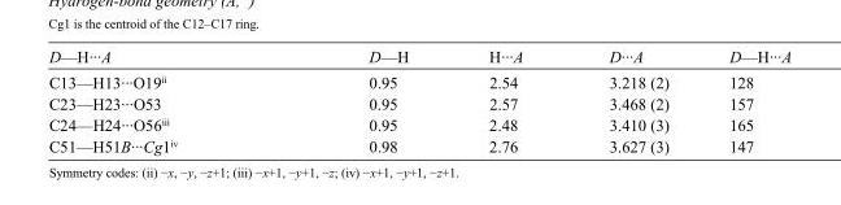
<table><tbody><tr><td>D—H···A</td><td>D—H</td><td>H···A</td><td>D···A</td><td>D—H···A</td></tr><tr><td>C13—H13···O19<sup>ii</sup></td><td>0.95</td><td>2.54</td><td>3.218 (2)</td><td>128</td></tr><tr><td>C23—H23···O53</td><td>0.95</td><td>2.57</td><td>3.468 (2)</td><td>157</td></tr><tr><td>C24—H24···O56<sup>iii</sup></td><td>0.95</td><td>2.48</td><td>3.410 (3)</td><td>165</td></tr><tr><td>C51—H51B···Cg1<sup>iv</sup></td><td>0.98</td><td>2.76</td><td>3.627 (3)</td><td>147</td></tr></tbody></table>